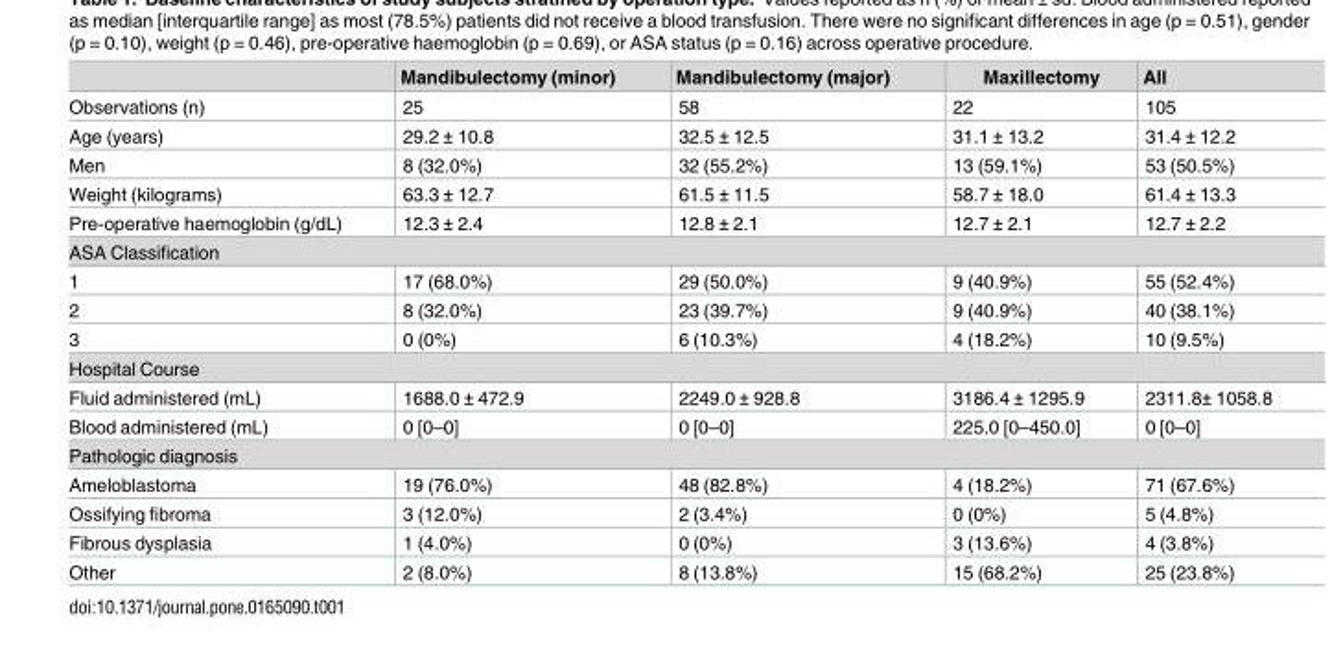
<table><thead><tr><td></td><td>Mandibulectomy (minor)</td><td>Mandibulectomy (major)</td><td>Maxillectomy</td><td>All</td></tr></thead><tbody><tr><td>Observations (n)</td><td>25</td><td>58</td><td>22</td><td>105</td></tr><tr><td>Age (years)</td><td>29.2 ± 10.8</td><td>32.5 ± 12.5</td><td>31.1 ± 13.2</td><td>31.4 ± 12.2</td></tr><tr><td>Men</td><td>8 (32.0%)</td><td>32 (55.2%)</td><td>13 (59.1%)</td><td>53 (50.5%)</td></tr><tr><td>Weight (kilograms)</td><td>63.3 ± 12.7</td><td>61.5 ± 11.5</td><td>58.7 ± 18.0</td><td>61.4 ± 13.3</td></tr><tr><td>Pre-operative haemoglobin (g/dL)</td><td>12.3 ± 2.4</td><td>12.8 ± 2.1</td><td>12.7 ± 2.1</td><td>12.7 ± 2.2</td></tr><tr><td colspan="5">ASA Classification</td></tr><tr><td>1</td><td>17 (68.0%)</td><td>29 (50.0%)</td><td>9 (40.9%)</td><td>55 (52.4%)</td></tr><tr><td>2</td><td>8 (32.0%)</td><td>23 (39.7%)</td><td>9 (40.9%)</td><td>40 (38.1%)</td></tr><tr><td>3</td><td>0 (0%)</td><td>6 (10.3%)</td><td>4 (18.2%)</td><td>10 (9.5%)</td></tr><tr><td colspan="5">Hospital Course</td></tr><tr><td>Fluid administered (mL)</td><td>1688.0 ± 472.9</td><td>2249.0 ± 928.8</td><td>3186.4 ± 1295.9</td><td>2311.8± 1058.8</td></tr><tr><td>Blood administered (mL)</td><td>0 [0–0]</td><td>0 [0–0]</td><td>225.0 [0–450.0]</td><td>0 [0–0]</td></tr><tr><td colspan="5">Pathologic diagnosis</td></tr><tr><td>Ameloblastoma</td><td>19 (76.0%)</td><td>48 (82.8%)</td><td>4 (18.2%)</td><td>71 (67.6%)</td></tr><tr><td>Ossifying fibroma</td><td>3 (12.0%)</td><td>2 (3.4%)</td><td>0 (0%)</td><td>5 (4.8%)</td></tr><tr><td>Fibrous dysplasia</td><td>1 (4.0%)</td><td>0 (0%)</td><td>3 (13.6%)</td><td>4 (3.8%)</td></tr><tr><td>Other</td><td>2 (8.0%)</td><td>8 (13.8%)</td><td>15 (68.2%)</td><td>25 (23.8%)</td></tr></tbody></table>